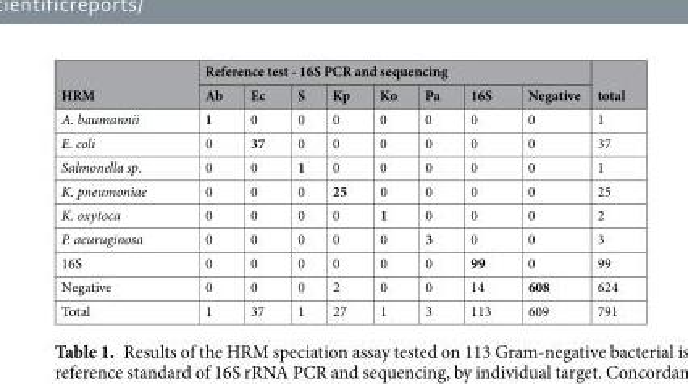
<table><thead><tr><td rowspan="2">HRM</td><td colspan="8">Reference test - 16S PCR and sequencing</td><td rowspan="2">total</td></tr><tr><td>Ab</td><td>Ec</td><td>S</td><td>Kp</td><td>Ko</td><td>Pa</td><td>16S</td><td>Negative</td></tr></thead><tbody><tr><td>A. baumannii</td><td>1</td><td>0</td><td>0</td><td>0</td><td>0</td><td>0</td><td>0</td><td>0</td><td>1</td></tr><tr><td>E. coli</td><td>0</td><td>37</td><td>0</td><td>0</td><td>0</td><td>0</td><td>0</td><td>0</td><td>37</td></tr><tr><td>Salmonella sp.</td><td>0</td><td>0</td><td>1</td><td>0</td><td>0</td><td>0</td><td>0</td><td>0</td><td>1</td></tr><tr><td>K. pneumoniae</td><td>0</td><td>0</td><td>0</td><td>25</td><td>0</td><td>0</td><td>0</td><td>0</td><td>25</td></tr><tr><td>K. oxytoca</td><td>0</td><td>0</td><td>0</td><td>0</td><td>1</td><td>0</td><td>0</td><td>0</td><td>2</td></tr><tr><td>P. aeuruginosa</td><td>0</td><td>0</td><td>0</td><td>0</td><td>0</td><td>3</td><td>0</td><td>0</td><td>3</td></tr><tr><td>16S</td><td>0</td><td>0</td><td>0</td><td>0</td><td>0</td><td>0</td><td>99</td><td>0</td><td>99</td></tr><tr><td>Negative</td><td>0</td><td>0</td><td>0</td><td>2</td><td>0</td><td>0</td><td>14</td><td>608</td><td>624</td></tr><tr><td>Total</td><td>1</td><td>37</td><td>1</td><td>27</td><td>1</td><td>3</td><td>113</td><td>609</td><td>791</td></tr></tbody></table>